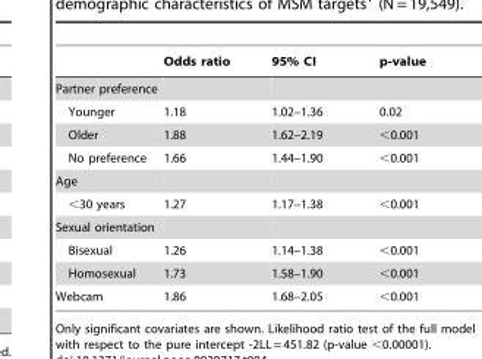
<table><thead><tr><td></td><td>Odds ratio</td><td>95% CI</td><td>p-value</td></tr></thead><tbody><tr><td colspan="4">Partner preference</td></tr><tr><td>Younger</td><td>1.18</td><td>1.02–1.36</td><td>0.02</td></tr><tr><td>Older</td><td>1.88</td><td>1.62–2.19</td><td>&lt;0.001</td></tr><tr><td>No preference</td><td>1.66</td><td>1.44–1.90</td><td>&lt;0.001</td></tr><tr><td colspan="4">Age</td></tr><tr><td>&lt;30 years</td><td>1.27</td><td>1.17–1.38</td><td>&lt;0.001</td></tr><tr><td colspan="4">Sexual orientation</td></tr><tr><td>Bisexual</td><td>1.26</td><td>1.14–1.38</td><td>&lt;0.001</td></tr><tr><td>Homosexual</td><td>1.73</td><td>1.58–1.90</td><td>&lt;0.001</td></tr><tr><td>Webcam</td><td>1.86</td><td>1.68–2.05</td><td>&lt;0.001</td></tr></tbody></table>